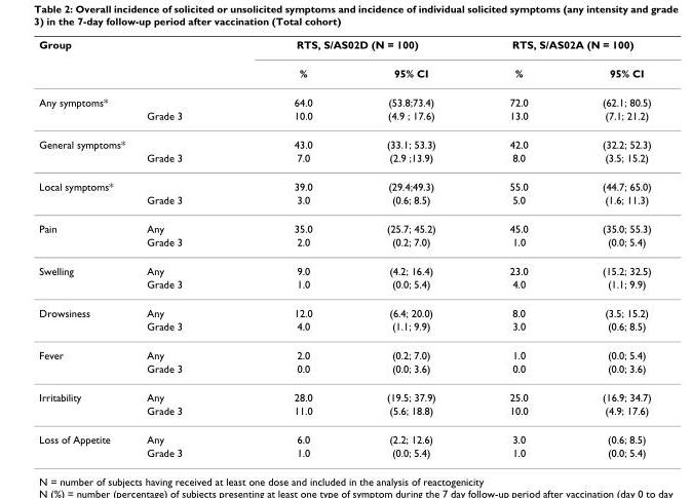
<table><thead><tr><td rowspan="2">Group</td><td rowspan="2"></td><td colspan="2">RTS, S/AS02D (N = 100)</td><td colspan="2">RTS, S/AS02A (N = 100)</td></tr><tr><td>%</td><td>95% CI</td><td>%</td><td>95% CI</td></tr></thead><tbody><tr><td rowspan="2">Any symptoms*</td><td></td><td>64.0</td><td>(53.8;73.4)</td><td>72.0</td><td>(62.1; 80.5)</td></tr><tr><td>Grade 3</td><td>10.0</td><td>(4.9 ; 17.6)</td><td>13.0</td><td>(7.1; 21.2)</td></tr><tr><td rowspan="2">General symptoms*</td><td></td><td>43.0</td><td>(33.1; 53.3)</td><td>42.0</td><td>(32.2; 52.3)</td></tr><tr><td>Grade 3</td><td>7.0</td><td>(2.9 ;13.9)</td><td>8.0</td><td>(3.5; 15.2)</td></tr><tr><td rowspan="2">Local symptoms*</td><td></td><td>39.0</td><td>(29.4;49.3)</td><td>55.0</td><td>(44.7; 65.0)</td></tr><tr><td>Grade 3</td><td>3.0</td><td>(0.6; 8.5)</td><td>5.0</td><td>(1.6; 11.3)</td></tr><tr><td rowspan="2">Pain</td><td>Any</td><td>35.0</td><td>(25.7; 45.2)</td><td>45.0</td><td>(35.0; 55.3)</td></tr><tr><td>Grade 3</td><td>2.0</td><td>(0.2; 7.0)</td><td>1.0</td><td>(0.0; 5.4)</td></tr><tr><td rowspan="2">Swelling</td><td>Any</td><td>9.0</td><td>(4.2; 16.4)</td><td>23.0</td><td>(15.2; 32.5)</td></tr><tr><td>Grade 3</td><td>1.0</td><td>(0.0; 5.4)</td><td>4.0</td><td>(1.1; 9.9)</td></tr><tr><td rowspan="2">Drowsiness</td><td>Any</td><td>12.0</td><td>(6.4; 20.0)</td><td>8.0</td><td>(3.5; 15.2)</td></tr><tr><td>Grade 3</td><td>4.0</td><td>(1.1; 9.9)</td><td>3.0</td><td>(0.6; 8.5)</td></tr><tr><td rowspan="2">Fever</td><td>Any</td><td>2.0</td><td>(0.2; 7.0)</td><td>1.0</td><td>(0.0; 5.4)</td></tr><tr><td>Grade 3</td><td>0.0</td><td>(0.0; 3.6)</td><td>0.0</td><td>(0.0; 3.6)</td></tr><tr><td rowspan="2">Irritability</td><td>Any</td><td>28.0</td><td>(19.5; 37.9)</td><td>25.0</td><td>(16.9; 34.7)</td></tr><tr><td>Grade 3</td><td>11.0</td><td>(5.6; 18.8)</td><td>10.0</td><td>(4.9; 17.6)</td></tr><tr><td rowspan="2">Loss of Appetite</td><td>Any</td><td>6.0</td><td>(2.2; 12.6)</td><td>3.0</td><td>(0.6; 8.5)</td></tr><tr><td>Grade 3</td><td>1.0</td><td>(0.0; 5.4)</td><td>1.0</td><td>(0.0; 5.4)</td></tr></tbody></table>